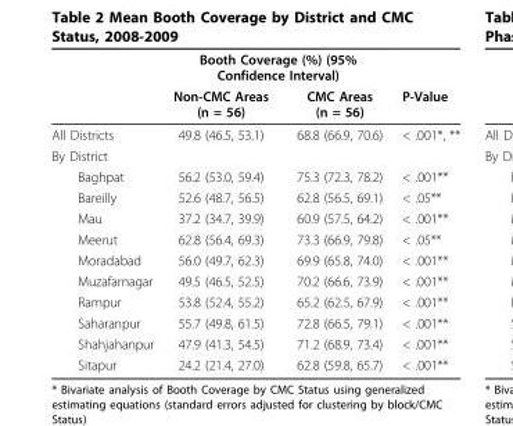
<table><thead><tr><td rowspan="2"></td><td colspan="2">Booth Coverage (%) (95% Confidence Interval)</td><td rowspan="2">P-Value</td></tr><tr><td>Non-CMC Areas (n = 56)</td><td>CMC Areas (n = 56)</td></tr></thead><tbody><tr><td>All Districts</td><td>49.8 (46.5, 53.1)</td><td>68.8 (66.9, 70.6)</td><td>&lt; .001*, **</td></tr><tr><td colspan="4">By District</td></tr><tr><td>Baghpat</td><td>56.2 (53.0, 59.4)</td><td>75.3 (72.3, 78.2)</td><td>&lt; .001**</td></tr><tr><td>Bareilly</td><td>52.6 (48.7, 56.5)</td><td>62.8 (56.5, 69.1)</td><td>&lt; .05**</td></tr><tr><td>Mau</td><td>37.2 (34.7, 39.9)</td><td>60.9 (57.5, 64.2)</td><td>&lt; .001**</td></tr><tr><td>Meerut</td><td>62.8 (56.4, 69.3)</td><td>73.3 (66.9, 79.8)</td><td>&lt; .05**</td></tr><tr><td>Moradabad</td><td>56.0 (49.7, 62.3)</td><td>69.9 (65.8, 74.0)</td><td>&lt; .001**</td></tr><tr><td>Muzafarnagar</td><td>49.5 (46.5, 52.5)</td><td>70.2 (66.6, 73.9)</td><td>&lt; .001**</td></tr><tr><td>Rampur</td><td>53.8 (52.4, 55.2)</td><td>65.2 (62.5, 67.9)</td><td>&lt; .001**</td></tr><tr><td>Saharanpur</td><td>55.7 (49.8, 61.5)</td><td>72.8 (66.5, 79.1)</td><td>&lt; .001**</td></tr><tr><td>Shahjahanpur</td><td>47.9 (41.3, 54.5)</td><td>71.2 (68.9, 73.4)</td><td>&lt; .001**</td></tr><tr><td>Sitapur</td><td>24.2 (21.4, 27.0)</td><td>62.8 (59.8, 65.7)</td><td>&lt; .001**</td></tr></tbody></table>